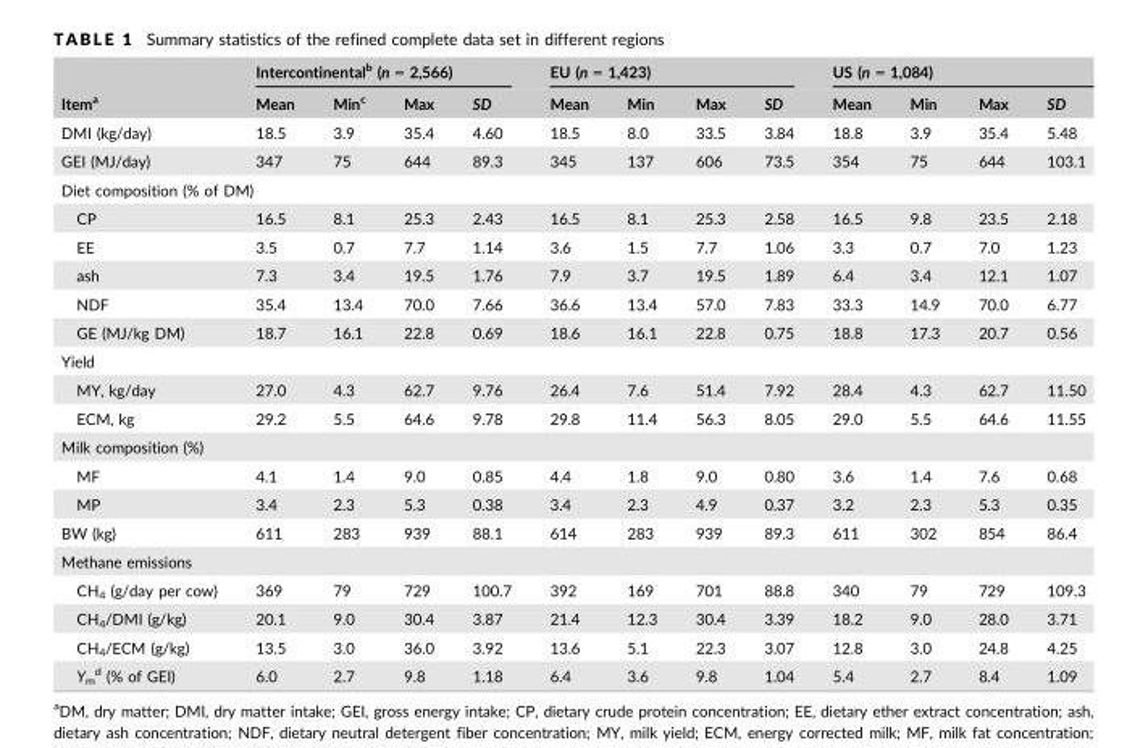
<table><thead><tr><td rowspan="2">Item<sup>a</sup></td><td colspan="4">Intercontinental<sup>b</sup> (n = 2,566)</td><td colspan="4">EU (n = 1,423)</td><td colspan="4">US (n = 1,084)</td></tr><tr><td>Mean</td><td>Min<sup>c</sup></td><td>Max</td><td>SD</td><td>Mean</td><td>Min</td><td>Max</td><td>SD</td><td>Mean</td><td>Min</td><td>Max</td><td>SD</td></tr></thead><tbody><tr><td>DMI (kg/day)</td><td>18.5</td><td>3.9</td><td>35.4</td><td>4.60</td><td>18.5</td><td>8.0</td><td>33.5</td><td>3.84</td><td>18.8</td><td>3.9</td><td>35.4</td><td>5.48</td></tr><tr><td>GEI (MJ/day)</td><td>347</td><td>75</td><td>644</td><td>89.3</td><td>345</td><td>137</td><td>606</td><td>73.5</td><td>354</td><td>75</td><td>644</td><td>103.1</td></tr><tr><td colspan="13">Diet composition (% of DM)</td></tr><tr><td>CP</td><td>16.5</td><td>8.1</td><td>25.3</td><td>2.43</td><td>16.5</td><td>8.1</td><td>25.3</td><td>2.58</td><td>16.5</td><td>9.8</td><td>23.5</td><td>2.18</td></tr><tr><td>EE</td><td>3.5</td><td>0.7</td><td>7.7</td><td>1.14</td><td>3.6</td><td>1.5</td><td>7.7</td><td>1.06</td><td>3.3</td><td>0.7</td><td>7.0</td><td>1.23</td></tr><tr><td>ash</td><td>7.3</td><td>3.4</td><td>19.5</td><td>1.76</td><td>7.9</td><td>3.7</td><td>19.5</td><td>1.89</td><td>6.4</td><td>3.4</td><td>12.1</td><td>1.07</td></tr><tr><td>NDF</td><td>35.4</td><td>13.4</td><td>70.0</td><td>7.66</td><td>36.6</td><td>13.4</td><td>57.0</td><td>7.83</td><td>33.3</td><td>14.9</td><td>70.0</td><td>6.77</td></tr><tr><td>GE (MJ/kg DM)</td><td>18.7</td><td>16.1</td><td>22.8</td><td>0.69</td><td>18.6</td><td>16.1</td><td>22.8</td><td>0.75</td><td>18.8</td><td>17.3</td><td>20.7</td><td>0.56</td></tr><tr><td colspan="13">Yield</td></tr><tr><td>MY, kg/day</td><td>27.0</td><td>4.3</td><td>62.7</td><td>9.76</td><td>26.4</td><td>7.6</td><td>51.4</td><td>7.92</td><td>28.4</td><td>4.3</td><td>62.7</td><td>11.50</td></tr><tr><td>ECM, kg</td><td>29.2</td><td>5.5</td><td>64.6</td><td>9.78</td><td>29.8</td><td>11.4</td><td>56.3</td><td>8.05</td><td>29.0</td><td>5.5</td><td>64.6</td><td>11.55</td></tr><tr><td colspan="13">Milk composition (%)</td></tr><tr><td>MF</td><td>4.1</td><td>1.4</td><td>9.0</td><td>0.85</td><td>4.4</td><td>1.8</td><td>9.0</td><td>0.80</td><td>3.6</td><td>1.4</td><td>7.6</td><td>0.68</td></tr><tr><td>MP</td><td>3.4</td><td>2.3</td><td>5.3</td><td>0.38</td><td>3.4</td><td>2.3</td><td>4.9</td><td>0.37</td><td>3.2</td><td>2.3</td><td>5.3</td><td>0.35</td></tr><tr><td>BW (kg)</td><td>611</td><td>283</td><td>939</td><td>88.1</td><td>614</td><td>283</td><td>939</td><td>89.3</td><td>611</td><td>302</td><td>854</td><td>86.4</td></tr><tr><td colspan="13">Methane emissions</td></tr><tr><td>CH<sub>4</sub> (g/day per cow)</td><td>369</td><td>79</td><td>729</td><td>100.7</td><td>392</td><td>169</td><td>701</td><td>88.8</td><td>340</td><td>79</td><td>729</td><td>109.3</td></tr><tr><td>CH<sub>4</sub>/DMI (g/kg)</td><td>20.1</td><td>9.0</td><td>30.4</td><td>3.87</td><td>21.4</td><td>12.3</td><td>30.4</td><td>3.39</td><td>18.2</td><td>9.0</td><td>28.0</td><td>3.71</td></tr><tr><td>CH<sub>4</sub>/ECM (g/kg)</td><td>13.5</td><td>3.0</td><td>36.0</td><td>3.92</td><td>13.6</td><td>5.1</td><td>22.3</td><td>3.07</td><td>12.8</td><td>3.0</td><td>24.8</td><td>4.25</td></tr><tr><td>Y<sub>m</sub> d (% of GEI)</td><td>6.0</td><td>2.7</td><td>9.8</td><td>1.18</td><td>6.4</td><td>3.6</td><td>9.8</td><td>1.04</td><td>5.4</td><td>2.7</td><td>8.4</td><td>1.09</td></tr></tbody></table>